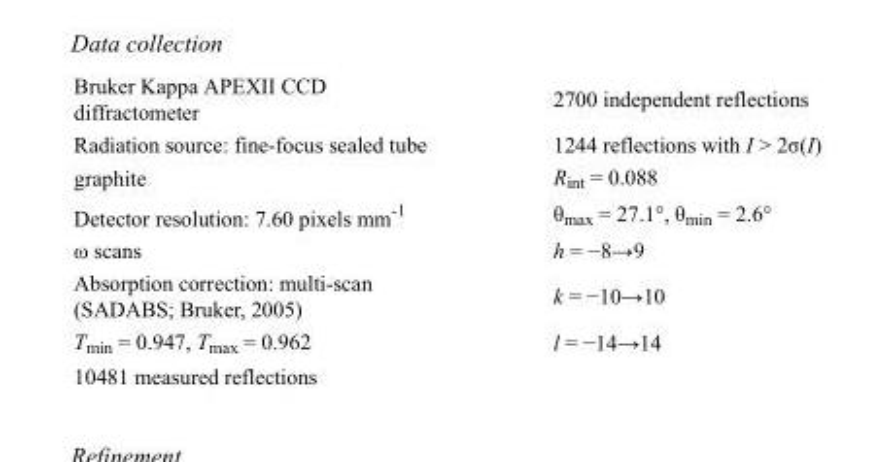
<table><tbody><tr><td>Bruker Kappa APEXII CCD diffractometer</td><td>2700 independent reflections</td></tr><tr><td>Radiation source: fine-focus sealed tube</td><td>1244 reflections with I &gt; 2σ(I)</td></tr><tr><td>graphite</td><td>R<sub>int</sub> = 0.088</td></tr><tr><td>Detector resolution: 7.60 pixels mm<sup>-1</sup></td><td>θ<sub>max</sub> = 27.1°, θ<sub>min</sub> = 2.6°</td></tr><tr><td>ω scans</td><td>h = −8→9</td></tr><tr><td>Absorption correction: multi-scan (SADABS; Bruker, 2005)</td><td>k = −10→10</td></tr><tr><td>T<sub>min</sub> = 0.947, T<sub>max</sub> = 0.962</td><td>l = −14→14</td></tr><tr><td>10481 measured reflections</td><td></td></tr></tbody></table>